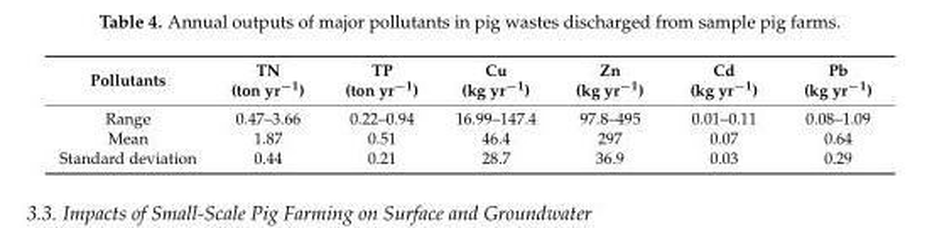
<table><thead><tr><td>Pollutants</td><td>TN (ton yr<sup>−1</sup>)</td><td>TP (ton yr<sup>−1</sup>)</td><td>Cu (kg yr<sup>−1</sup>)</td><td>Zn (kg yr<sup>−1</sup>)</td><td>Cd (kg yr<sup>−1</sup>)</td><td>Pb (kg yr<sup>−1</sup>)</td></tr></thead><tbody><tr><td>Range</td><td>0.47–3.66</td><td>0.22–0.94</td><td>16.99–147.4</td><td>97.8–495</td><td>0.01–0.11</td><td>0.08–1.09</td></tr><tr><td>Mean</td><td>1.87</td><td>0.51</td><td>46.4</td><td>297</td><td>0.07</td><td>0.64</td></tr><tr><td>Standard deviation</td><td>0.44</td><td>0.21</td><td>28.7</td><td>36.9</td><td>0.03</td><td>0.29</td></tr></tbody></table>